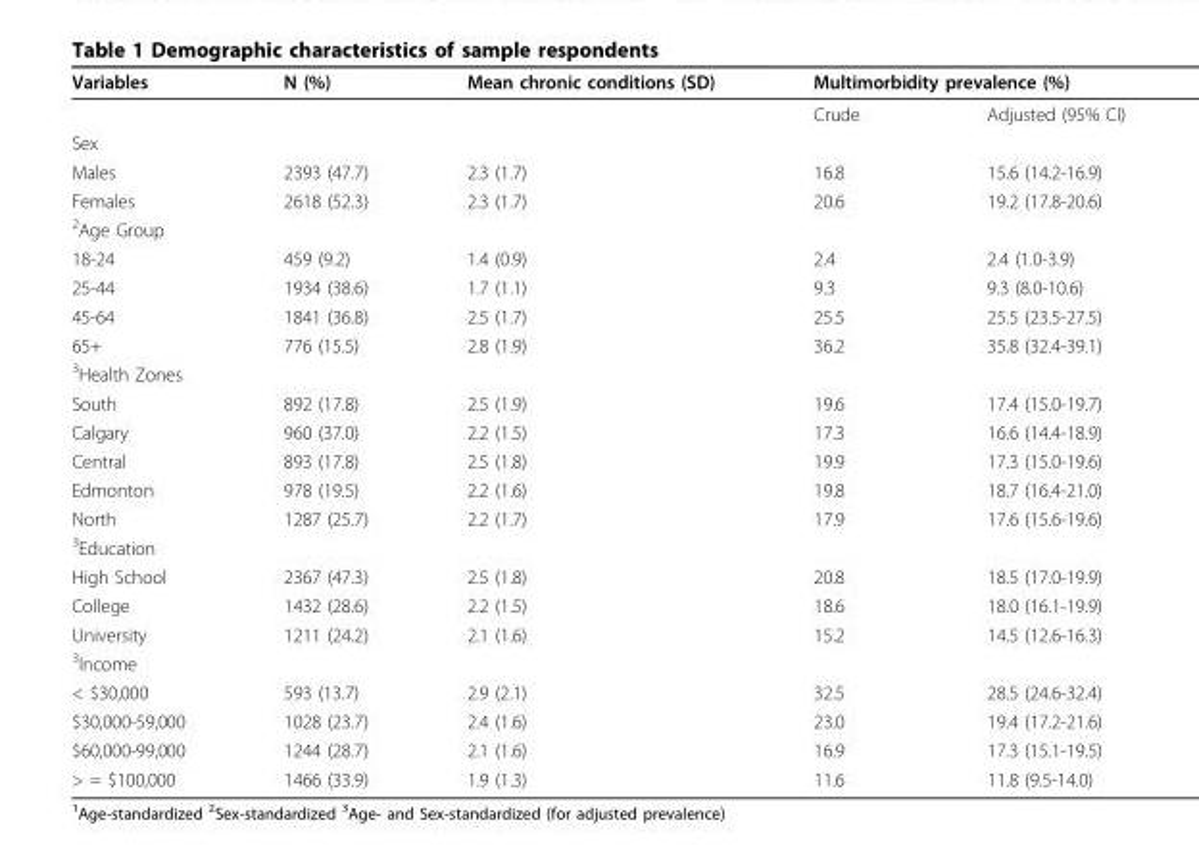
<table><thead><tr><td rowspan="2">Variables</td><td rowspan="2">N (%)</td><td rowspan="2">Mean chronic conditions (SD)</td><td colspan="2">Multimorbidity prevalence (%)</td></tr><tr><td>Crude</td><td>Adjusted (95% CI)</td></tr></thead><tbody><tr><td colspan="5">Sex</td></tr><tr><td>Males</td><td>2393 (47.7)</td><td>2.3 (1.7)</td><td>16.8</td><td>15.6 (14.2-16.9)</td></tr><tr><td>Females</td><td>2618 (52.3)</td><td>2.3 (1.7)</td><td>20.6</td><td>19.2 (17.8-20.6)</td></tr><tr><td colspan="5"><sup>2</sup>Age Group</td></tr><tr><td>18-24</td><td>459 (9.2)</td><td>1.4 (0.9)</td><td>2.4</td><td>2.4 (1.0-3.9)</td></tr><tr><td>25-44</td><td>1934 (38.6)</td><td>1.7 (1.1)</td><td>9.3</td><td>9.3 (8.0-10.6)</td></tr><tr><td>45-64</td><td>1841 (36.8)</td><td>2.5 (1.7)</td><td>25.5</td><td>25.5 (23.5-27.5)</td></tr><tr><td>65+</td><td>776 (15.5)</td><td>2.8 (1.9)</td><td>36.2</td><td>35.8 (32.4-39.1)</td></tr><tr><td colspan="5"><sup>3</sup>Health Zones</td></tr><tr><td>South</td><td>892 (17.8)</td><td>2.5 (1.9)</td><td>19.6</td><td>17.4 (15.0-19.7)</td></tr><tr><td>Calgary</td><td>960 (37.0)</td><td>2.2 (1.5)</td><td>17.3</td><td>16.6 (14.4-18.9)</td></tr><tr><td>Central</td><td>893 (17.8)</td><td>2.5 (1.8)</td><td>19.9</td><td>17.3 (15.0-19.6)</td></tr><tr><td>Edmonton</td><td>978 (19.5)</td><td>2.2 (1.6)</td><td>19.8</td><td>18.7 (16.4-21.0)</td></tr><tr><td>North</td><td>1287 (25.7)</td><td>2.2 (1.7)</td><td>17.9</td><td>17.6 (15.6-19.6)</td></tr><tr><td colspan="5"><sup>3</sup>Education</td></tr><tr><td>High School</td><td>2367 (47.3)</td><td>2.5 (1.8)</td><td>20.8</td><td>18.5 (17.0-19.9)</td></tr><tr><td>College</td><td>1432 (28.6)</td><td>2.2 (1.5)</td><td>18.6</td><td>18.0 (16.1-19.9)</td></tr><tr><td>University</td><td>1211 (24.2)</td><td>2.1 (1.6)</td><td>15.2</td><td>14.5 (12.6-16.3)</td></tr><tr><td colspan="5"><sup>3</sup>Income</td></tr><tr><td>&lt; $30,000</td><td>593 (13.7)</td><td>2.9 (2.1)</td><td>32.5</td><td>28.5 (24.6-32.4)</td></tr><tr><td>$30,000-59,000</td><td>1028 (23.7)</td><td>2.4 (1.6)</td><td>23.0</td><td>19.4 (17.2-21.6)</td></tr><tr><td>$60,000-99,000</td><td>1244 (28.7)</td><td>2.1 (1.6)</td><td>16.9</td><td>17.3 (15.1-19.5)</td></tr><tr><td>&gt; = $100,000</td><td>1466 (33.9)</td><td>1.9 (1.3)</td><td>11.6</td><td>11.8 (9.5-14.0)</td></tr></tbody></table>